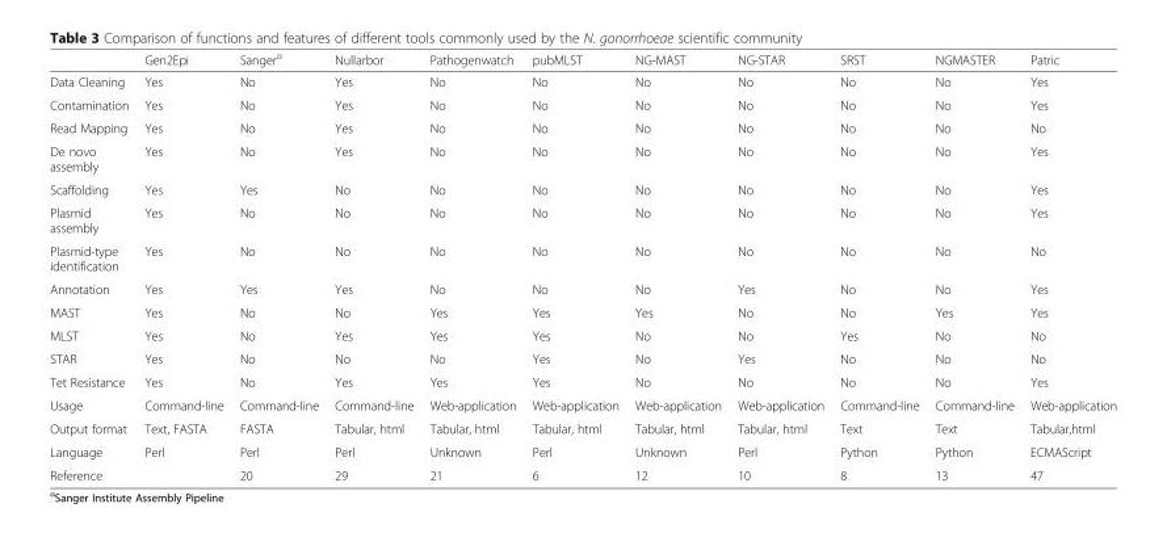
<table><thead><tr><td></td><td>Gen2Epi</td><td>Sanger<sup>α</sup></td><td>Nullarbor</td><td>Pathogenwatch</td><td>pubMLST</td><td>NG-MAST</td><td>NG-STAR</td><td>SRST</td><td>NGMASTER</td><td>Patric</td></tr></thead><tbody><tr><td>Data Cleaning</td><td>Yes</td><td>No</td><td>Yes</td><td>No</td><td>No</td><td>No</td><td>No</td><td>No</td><td>No</td><td>Yes</td></tr><tr><td>Contamination</td><td>Yes</td><td>No</td><td>Yes</td><td>No</td><td>No</td><td>No</td><td>No</td><td>No</td><td>No</td><td>Yes</td></tr><tr><td>Read Mapping</td><td>Yes</td><td>No</td><td>Yes</td><td>No</td><td>No</td><td>No</td><td>No</td><td>No</td><td>No</td><td>No</td></tr><tr><td>De novo assembly</td><td>Yes</td><td>No</td><td>Yes</td><td>No</td><td>No</td><td>No</td><td>No</td><td>No</td><td>No</td><td>Yes</td></tr><tr><td>Scaffolding</td><td>Yes</td><td>Yes</td><td>No</td><td>No</td><td>No</td><td>No</td><td>No</td><td>No</td><td>No</td><td>Yes</td></tr><tr><td>Plasmid assembly</td><td>Yes</td><td>No</td><td>No</td><td>No</td><td>No</td><td>No</td><td>No</td><td>No</td><td>No</td><td>Yes</td></tr><tr><td>Plasmid-type identification</td><td>Yes</td><td>No</td><td>No</td><td>No</td><td>No</td><td>No</td><td>No</td><td>No</td><td>No</td><td>No</td></tr><tr><td>Annotation</td><td>Yes</td><td>Yes</td><td>Yes</td><td>No</td><td>No</td><td>No</td><td>Yes</td><td>No</td><td>No</td><td>Yes</td></tr><tr><td>MAST</td><td>Yes</td><td>No</td><td>No</td><td>Yes</td><td>Yes</td><td>Yes</td><td>No</td><td>No</td><td>Yes</td><td>Yes</td></tr><tr><td>MLST</td><td>Yes</td><td>No</td><td>Yes</td><td>Yes</td><td>Yes</td><td>No</td><td>No</td><td>Yes</td><td>No</td><td>No</td></tr><tr><td>STAR</td><td>Yes</td><td>No</td><td>No</td><td>No</td><td>Yes</td><td>No</td><td>Yes</td><td>No</td><td>No</td><td>No</td></tr><tr><td>Tet Resistance</td><td>Yes</td><td>No</td><td>Yes</td><td>Yes</td><td>Yes</td><td>No</td><td>No</td><td>No</td><td>No</td><td>Yes</td></tr><tr><td>Usage</td><td>Command-line</td><td>Command-line</td><td>Command-line</td><td>Web-application</td><td>Web-application</td><td>Web-application</td><td>Web-application</td><td>Command-line</td><td>Command-line</td><td>Web-application</td></tr><tr><td>Output format</td><td>Text, FASTA</td><td>FASTA</td><td>Tabular, html</td><td>Tabular, html</td><td>Tabular, html</td><td>Tabular, html</td><td>Tabular, html</td><td>Text</td><td>Text</td><td>Tabular,html</td></tr><tr><td>Language</td><td>Perl</td><td>Perl</td><td>Perl</td><td>Unknown</td><td>Perl</td><td>Unknown</td><td>Perl</td><td>Python</td><td>Python</td><td>ECMAScript</td></tr><tr><td>Reference</td><td></td><td>20</td><td>29</td><td>21</td><td>6</td><td>12</td><td>10</td><td>8</td><td>13</td><td>47</td></tr></tbody></table>